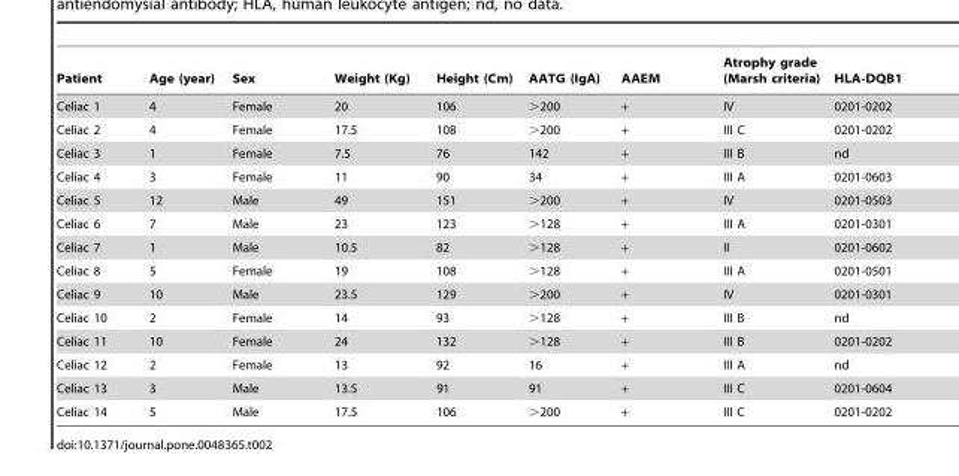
<table><thead><tr><td>Patient</td><td>Age (year)</td><td>Sex</td><td>Weight (Kg)</td><td>Height (Cm)</td><td>AATG (IgA)</td><td>AAEM</td><td>Atrophy grade (Marsh criteria)</td><td>HLA-DQB1</td></tr></thead><tbody><tr><td>Celiac 1</td><td>4</td><td>Female</td><td>20</td><td>106</td><td>&gt;200</td><td>+</td><td>IV</td><td>0201-0202</td></tr><tr><td>Celiac 2</td><td>4</td><td>Female</td><td>17.5</td><td>108</td><td>&gt;200</td><td>+</td><td>III C</td><td>0201-0202</td></tr><tr><td>Celiac 3</td><td>1</td><td>Female</td><td>7.5</td><td>76</td><td>142</td><td>+</td><td>III B</td><td>nd</td></tr><tr><td>Celiac 4</td><td>3</td><td>Female</td><td>11</td><td>90</td><td>34</td><td>+</td><td>III A</td><td>0201-0603</td></tr><tr><td>Celiac 5</td><td>12</td><td>Male</td><td>49</td><td>151</td><td>&gt;200</td><td>+</td><td>IV</td><td>0201-0503</td></tr><tr><td>Celiac 6</td><td>7</td><td>Male</td><td>23</td><td>123</td><td>&gt;128</td><td>+</td><td>III A</td><td>0201-0301</td></tr><tr><td>Celiac 7</td><td>1</td><td>Male</td><td>10.5</td><td>82</td><td>&gt;128</td><td>+</td><td>II</td><td>0201-0602</td></tr><tr><td>Celiac 8</td><td>5</td><td>Female</td><td>19</td><td>108</td><td>&gt;128</td><td>+</td><td>III A</td><td>0201-0501</td></tr><tr><td>Celiac 9</td><td>10</td><td>Male</td><td>23.5</td><td>129</td><td>&gt;200</td><td>+</td><td>IV</td><td>0201-0301</td></tr><tr><td>Celiac 10</td><td>2</td><td>Female</td><td>14</td><td>93</td><td>&gt;128</td><td>+</td><td>III B</td><td>nd</td></tr><tr><td>Celiac 11</td><td>10</td><td>Female</td><td>24</td><td>132</td><td>&gt;128</td><td>+</td><td>III B</td><td>0201-0202</td></tr><tr><td>Celiac 12</td><td>2</td><td>Female</td><td>13</td><td>92</td><td>16</td><td>+</td><td>III A</td><td>nd</td></tr><tr><td>Celiac 13</td><td>3</td><td>Male</td><td>13.5</td><td>91</td><td>91</td><td>+</td><td>III C</td><td>0201-0604</td></tr><tr><td>Celiac 14</td><td>5</td><td>Male</td><td>17.5</td><td>106</td><td>&gt;200</td><td>+</td><td>III C</td><td>0201-0202</td></tr></tbody></table>